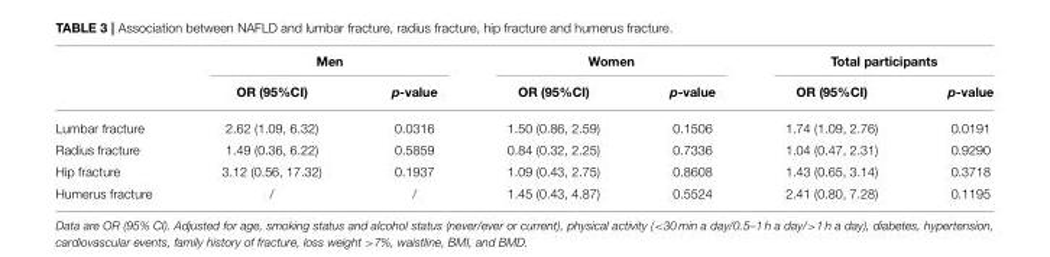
<table><thead><tr><td rowspan="2"></td><td colspan="2">Men</td><td colspan="2">Women</td><td colspan="2">Total participants</td></tr><tr><td>OR (95%CI)</td><td>p-value</td><td>OR (95%CI)</td><td>p-value</td><td>OR (95%CI)</td><td>p-value</td></tr></thead><tbody><tr><td>Lumbar fracture</td><td>2.62 (1.09, 6.32)</td><td>0.0316</td><td>1.50 (0.86, 2.59)</td><td>0.1506</td><td>1.74 (1.09, 2.76)</td><td>0.0191</td></tr><tr><td>Radius fracture</td><td>1.49 (0.36, 6.22)</td><td>0.5859</td><td>0.84 (0.32, 2.25)</td><td>0.7336</td><td>1.04 (0.47, 2.31)</td><td>0.9290</td></tr><tr><td>Hip fracture</td><td>3.12 (0.56, 17.32)</td><td>0.1937</td><td>1.09 (0.43, 2.75)</td><td>0.8608</td><td>1.43 (0.65, 3.14)</td><td>0.3718</td></tr><tr><td>Humerus fracture</td><td>/</td><td>/</td><td>1.45 (0.43, 4.87)</td><td>0.5524</td><td>2.41 (0.80, 7.28)</td><td>0.1195</td></tr></tbody></table>